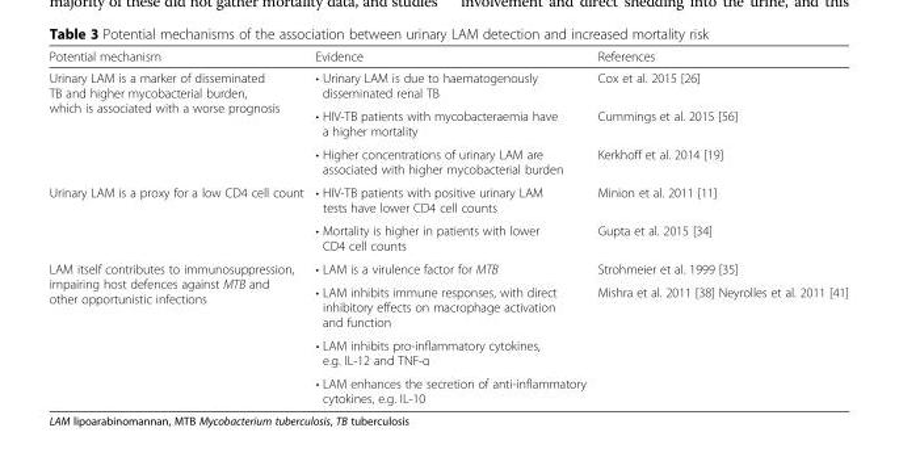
<table><thead><tr><td>Potential mechanism</td><td>Evidence</td><td>References</td></tr></thead><tbody><tr><td rowspan="3">Urinary LAM is a marker of disseminated TB and higher mycobacterial burden, which is associated with a worse prognosis</td><td>• Urinary LAM is due to haematogenously disseminated renal TB</td><td>Cox et al. 2015 [26]</td></tr><tr><td>• HIV-TB patients with mycobacteraemia have a higher mortality</td><td>Cummings et al. 2015 [56]</td></tr><tr><td>• Higher concentrations of urinary LAM are associated with higher mycobacterial burden</td><td>Kerkhoff et al. 2014 [19]</td></tr><tr><td rowspan="2">Urinary LAM is a proxy for a low CD4 cell count</td><td>• HIV-TB patients with positive urinary LAM tests have lower CD4 cell counts</td><td>Minion et al. 2011 [11]</td></tr><tr><td>• Mortality is higher in patients with lower CD4 cell counts</td><td>Gupta et al. 2015 [34]</td></tr><tr><td rowspan="4">LAM itself contributes to immunosuppression, impairing host defences against MTB and other opportunistic infections</td><td>• LAM is a virulence factor for MTB</td><td>Strohmeier et al. 1999 [35]</td></tr><tr><td>• LAM inhibits immune responses, with direct inhibitory effects on macrophage activation and function</td><td>Mishra et al. 2011 [38] Neyrolles et al. 2011 [41]</td></tr><tr><td>• LAM inhibits pro-inflammatory cytokines, e.g. IL-12 and TNF-α</td><td rowspan="2"></td></tr><tr><td>• LAM enhances the secretion of anti-inflammatory cytokines, e.g. IL-10</td></tr></tbody></table>